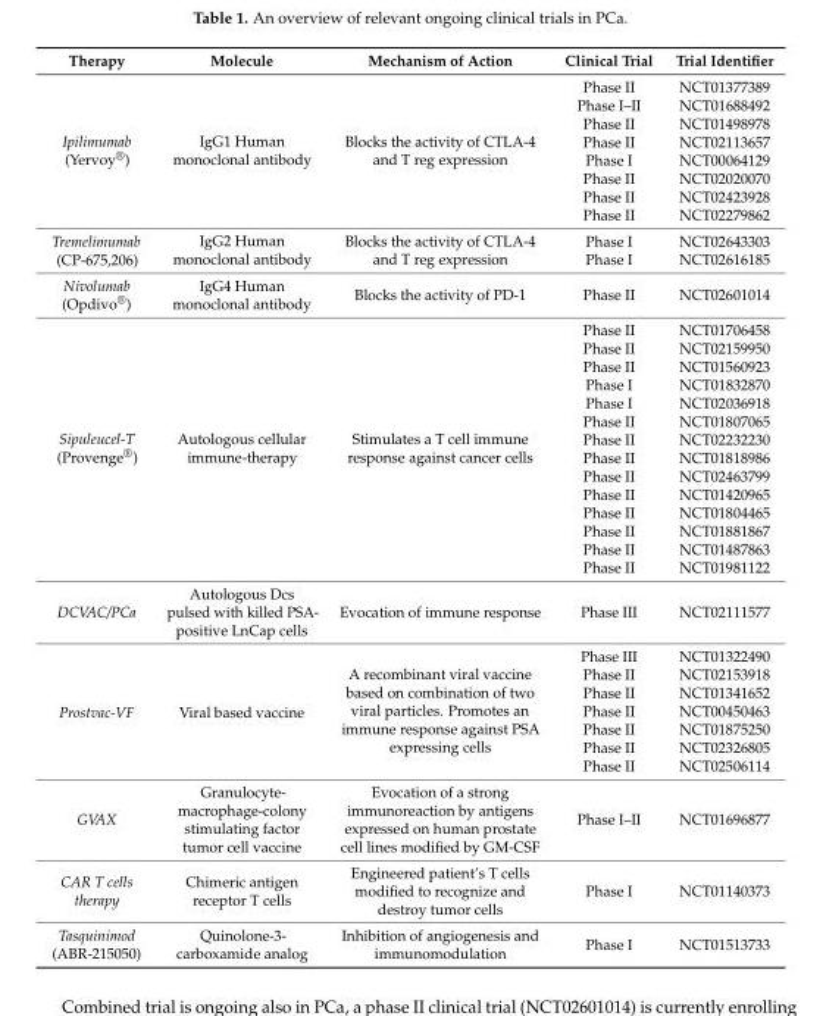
<table><thead><tr><td>Therapy</td><td>Molecule</td><td>Mechanism of Action</td><td>Clinical Trial</td><td>Trial Identifier</td></tr></thead><tbody><tr><td rowspan="8">Ipilimumab (Yervoy<sup>®</sup>)</td><td rowspan="8">IgG1 Human monoclonal antibody</td><td rowspan="8">Blocks the activity of CTLA-4 and T reg expression</td><td>Phase II</td><td>NCT01377389</td></tr><tr><td>Phase I–II</td><td>NCT01688492</td></tr><tr><td>Phase II</td><td>NCT01498978</td></tr><tr><td>Phase II</td><td>NCT02113657</td></tr><tr><td>Phase I</td><td>NCT00064129</td></tr><tr><td>Phase II</td><td>NCT02020070</td></tr><tr><td>Phase II</td><td>NCT02423928</td></tr><tr><td>Phase II</td><td>NCT02279862</td></tr><tr><td rowspan="2">Tremelimumab (CP-675,206)</td><td rowspan="2">IgG2 Human monoclonal antibody</td><td rowspan="2">Blocks the activity of CTLA-4 and T reg expression</td><td>Phase I</td><td>NCT02643303</td></tr><tr><td>Phase I</td><td>NCT02616185</td></tr><tr><td>Nivolumab (Opdivo<sup>®</sup>)</td><td>IgG4 Human monoclonal antibody</td><td>Blocks the activity of PD-1</td><td>Phase II</td><td>NCT02601014</td></tr><tr><td rowspan="14">Sipuleucel-T (Provenge<sup>®</sup>)</td><td rowspan="14">Autologous cellular immune-therapy</td><td rowspan="14">Stimulates a T cell immune response against cancer cells</td><td>Phase II</td><td>NCT01706458</td></tr><tr><td>Phase II</td><td>NCT02159950</td></tr><tr><td>Phase II</td><td>NCT01560923</td></tr><tr><td>Phase I</td><td>NCT01832870</td></tr><tr><td>Phase I</td><td>NCT02036918</td></tr><tr><td>Phase II</td><td>NCT01807065</td></tr><tr><td>Phase II</td><td>NCT02232230</td></tr><tr><td>Phase II</td><td>NCT01818986</td></tr><tr><td>Phase II</td><td>NCT02463799</td></tr><tr><td>Phase II</td><td>NCT01420965</td></tr><tr><td>Phase II</td><td>NCT01804465</td></tr><tr><td>Phase II</td><td>NCT01881867</td></tr><tr><td>Phase II</td><td>NCT01487863</td></tr><tr><td>Phase II</td><td>NCT01981122</td></tr><tr><td>DCVAC/PCa</td><td>Autologous Dcs pulsed with killed PSA- positive LnCap cells</td><td>Evocation of immune response</td><td>Phase III</td><td>NCT02111577</td></tr><tr><td rowspan="7">Prostvac-VF</td><td rowspan="7">Viral based vaccine</td><td rowspan="7">A recombinant viral vaccine based on combination of two viral particles. Promotes an immune response against PSA expressing cells</td><td>Phase III</td><td>NCT01322490</td></tr><tr><td>Phase II</td><td>NCT02153918</td></tr><tr><td>Phase II</td><td>NCT01341652</td></tr><tr><td>Phase II</td><td>NCT00450463</td></tr><tr><td>Phase II</td><td>NCT01875250</td></tr><tr><td>Phase II</td><td>NCT02326805</td></tr><tr><td>Phase II</td><td>NCT02506114</td></tr><tr><td>GVAX</td><td>Granulocyte- macrophage-colony stimulating factor tumor cell vaccine</td><td>Evocation of a strong immunoreaction by antigens expressed on human prostate cell lines modified by GM-CSF</td><td>Phase I–II</td><td>NCT01696877</td></tr><tr><td>CAR T cells therapy</td><td>Chimeric antigen receptor T cells</td><td>Engineered patient’s T cells modified to recognize and destroy tumor cells</td><td>Phase I</td><td>NCT01140373</td></tr><tr><td>Tasquinimod (ABR-215050)</td><td>Quinolone-3- carboxamide analog</td><td>Inhibition of angiogenesis and immunomodulation</td><td>Phase I</td><td>NCT01513733</td></tr></tbody></table>